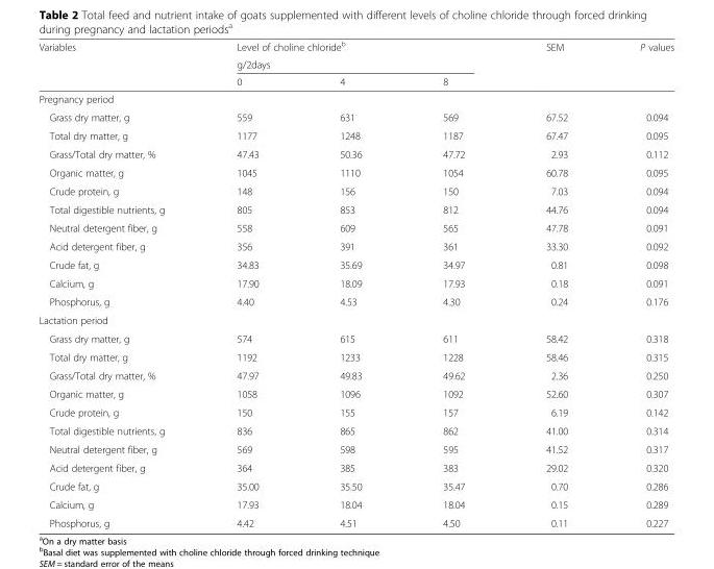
<table><thead><tr><td rowspan="3">Variables</td><td rowspan="2" colspan="3">Level of choline chloride<sup>b</sup> g/2days</td><td rowspan="3">SEM</td><td rowspan="3">P values</td></tr><tr></tr><tr><td>0</td><td>4</td><td>8</td></tr></thead><tbody><tr><td colspan="6">Pregnancy period</td></tr><tr><td>Grass dry matter, g</td><td>559</td><td>631</td><td>569</td><td>67.52</td><td>0.094</td></tr><tr><td>Total dry matter, g</td><td>1177</td><td>1248</td><td>1187</td><td>67.47</td><td>0.095</td></tr><tr><td>Grass/Total dry matter, %</td><td>47.43</td><td>50.36</td><td>47.72</td><td>2.93</td><td>0.112</td></tr><tr><td>Organic matter, g</td><td>1045</td><td>1110</td><td>1054</td><td>60.78</td><td>0.095</td></tr><tr><td>Crude protein, g</td><td>148</td><td>156</td><td>150</td><td>7.03</td><td>0.094</td></tr><tr><td>Total digestible nutrients, g</td><td>805</td><td>853</td><td>812</td><td>44.76</td><td>0.094</td></tr><tr><td>Neutral detergent fiber, g</td><td>558</td><td>609</td><td>565</td><td>47.78</td><td>0.091</td></tr><tr><td>Acid detergent fiber, g</td><td>356</td><td>391</td><td>361</td><td>33.30</td><td>0.092</td></tr><tr><td>Crude fat, g</td><td>34.83</td><td>35.69</td><td>34.97</td><td>0.81</td><td>0.098</td></tr><tr><td>Calcium, g</td><td>17.90</td><td>18.09</td><td>17.93</td><td>0.18</td><td>0.091</td></tr><tr><td>Phosphorus, g</td><td>4.40</td><td>4.53</td><td>4.30</td><td>0.24</td><td>0.176</td></tr><tr><td colspan="6">Lactation period</td></tr><tr><td>Grass dry matter, g</td><td>574</td><td>615</td><td>611</td><td>58.42</td><td>0.318</td></tr><tr><td>Total dry matter, g</td><td>1192</td><td>1233</td><td>1228</td><td>58.46</td><td>0.315</td></tr><tr><td>Grass/Total dry matter, %</td><td>47.97</td><td>49.83</td><td>49.62</td><td>2.36</td><td>0.250</td></tr><tr><td>Organic matter, g</td><td>1058</td><td>1096</td><td>1092</td><td>52.60</td><td>0.307</td></tr><tr><td>Crude protein, g</td><td>150</td><td>155</td><td>157</td><td>6.19</td><td>0.142</td></tr><tr><td>Total digestible nutrients, g</td><td>836</td><td>865</td><td>862</td><td>41.00</td><td>0.314</td></tr><tr><td>Neutral detergent fiber, g</td><td>569</td><td>598</td><td>595</td><td>41.52</td><td>0.317</td></tr><tr><td>Acid detergent fiber, g</td><td>364</td><td>385</td><td>383</td><td>29.02</td><td>0.320</td></tr><tr><td>Crude fat, g</td><td>35.00</td><td>35.50</td><td>35.47</td><td>0.70</td><td>0.286</td></tr><tr><td>Calcium, g</td><td>17.93</td><td>18.04</td><td>18.04</td><td>0.15</td><td>0.289</td></tr><tr><td>Phosphorus, g</td><td>4.42</td><td>4.51</td><td>4.50</td><td>0.11</td><td>0.227</td></tr></tbody></table>